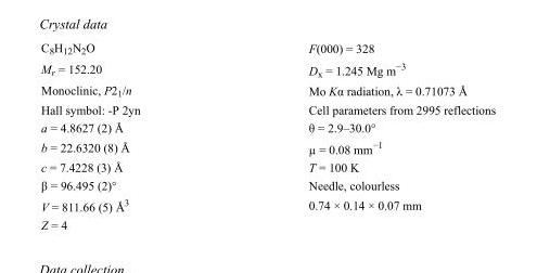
<table><tbody><tr><td>C<sub>8</sub>H<sub>12</sub>N<sub>2</sub>O</td><td>F(000) = 328</td></tr><tr><td>M<sub>r</sub> = 152.20</td><td>D<sub>x</sub> = 1.245 Mg m<sup>−3</sup></td></tr><tr><td>Monoclinic, P2<sub>1</sub>/n</td><td>Mo Kα radiation, λ = 0.71073 Å</td></tr><tr><td>Hall symbol: -P 2yn</td><td>Cell parameters from 2995 reflections</td></tr><tr><td>a = 4.8627 (2) Å</td><td>θ = 2.9–30.0°</td></tr><tr><td>b = 22.6320 (8) Å</td><td>µ = 0.08 mm<sup>−1</sup></td></tr><tr><td>c = 7.4228 (3) Å</td><td>T = 100 K</td></tr><tr><td>β = 96.495 (2)°</td><td>Needle, colourless</td></tr><tr><td>V = 811.66 (5) Å<sup>3</sup></td><td>0.74 × 0.14 × 0.07 mm</td></tr><tr><td>Z = 4</td><td></td></tr></tbody></table>